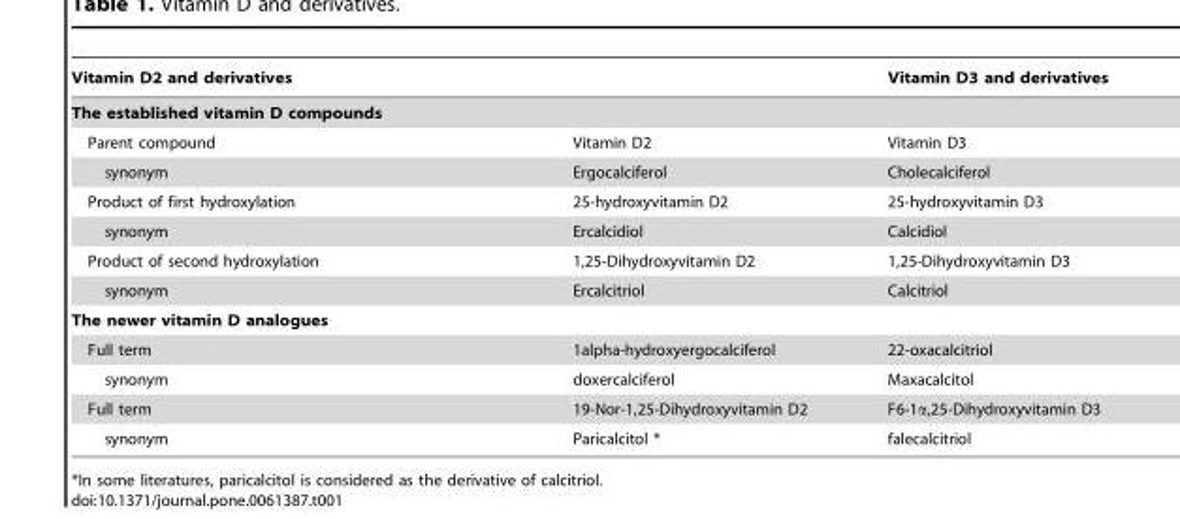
<table><thead><tr><td colspan="2">Vitamin D2 and derivatives</td><td>Vitamin D3 and derivatives</td></tr><tr><td colspan="3">The established vitamin D compounds</td></tr><tr><td>Parent compound</td><td>Vitamin D2</td><td>Vitamin D3</td></tr></thead><tbody><tr><td>synonym</td><td>Ergocalciferol</td><td>Cholecalciferol</td></tr><tr><td>Product of first hydroxylation</td><td>25-hydroxyvitamin D2</td><td>25-hydroxyvitamin D3</td></tr><tr><td>synonym</td><td>Ercalcidiol</td><td>Calcidiol</td></tr><tr><td>Product of second hydroxylation</td><td>1,25-Dihydroxyvitamin D2</td><td>1,25-Dihydroxyvitamin D3</td></tr><tr><td>synonym</td><td>Ercalcitriol</td><td>Calcitriol</td></tr><tr><td colspan="3">The newer vitamin D analogues</td></tr><tr><td>Full term</td><td>1alpha-hydroxyergocalciferol</td><td>22-oxacalcitriol</td></tr><tr><td>synonym</td><td>doxercalciferol</td><td>Maxacalcitol</td></tr><tr><td>Full term</td><td>19-Nor-1,25-Dihydroxyvitamin D2</td><td>F6-1α,25-Dihydroxyvitamin D3</td></tr><tr><td>synonym</td><td>Paricalcitol *</td><td>falecalcitriol</td></tr></tbody></table>